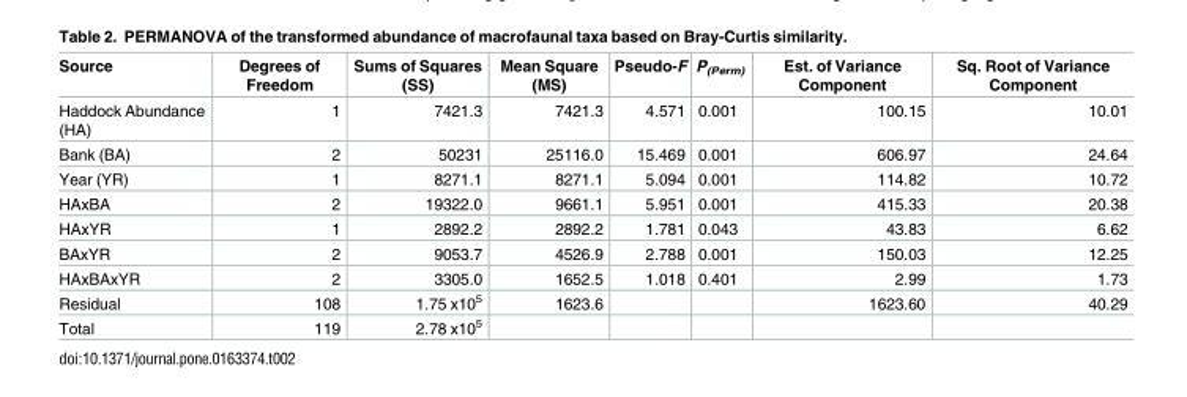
<table><thead><tr><td>Source</td><td>Degrees of Freedom</td><td>Sums of Squares (SS)</td><td>Mean Square (MS)</td><td>Pseudo-F</td><td>P<sub>(Perm)</sub></td><td>Est. of Variance Component</td><td>Sq. Root of Variance Component</td></tr></thead><tbody><tr><td>Haddock Abundance (HA)</td><td>1</td><td>7421.3</td><td>7421.3</td><td>4.571</td><td>0.001</td><td>100.15</td><td>10.01</td></tr><tr><td>Bank (BA)</td><td>2</td><td>50231</td><td>25116.0</td><td>15.469</td><td>0.001</td><td>606.97</td><td>24.64</td></tr><tr><td>Year (YR)</td><td>1</td><td>8271.1</td><td>8271.1</td><td>5.094</td><td>0.001</td><td>114.82</td><td>10.72</td></tr><tr><td>HAxBA</td><td>2</td><td>19322.0</td><td>9661.1</td><td>5.951</td><td>0.001</td><td>415.33</td><td>20.38</td></tr><tr><td>HAxYR</td><td>1</td><td>2892.2</td><td>2892.2</td><td>1.781</td><td>0.043</td><td>43.83</td><td>6.62</td></tr><tr><td>BAxYR</td><td>2</td><td>9053.7</td><td>4526.9</td><td>2.788</td><td>0.001</td><td>150.03</td><td>12.25</td></tr><tr><td>HAxBAxYR</td><td>2</td><td>3305.0</td><td>1652.5</td><td>1.018</td><td>0.401</td><td>2.99</td><td>1.73</td></tr><tr><td>Residual</td><td>108</td><td>1.75 x10<sup>5</sup></td><td>1623.6</td><td></td><td></td><td>1623.60</td><td>40.29</td></tr><tr><td>Total</td><td>119</td><td>2.78 x10<sup>5</sup></td><td></td><td></td><td></td><td></td><td></td></tr></tbody></table>